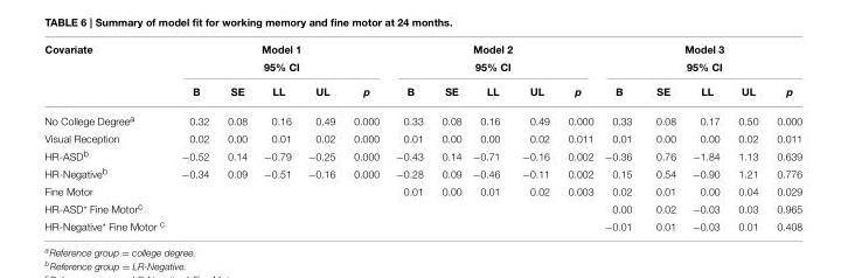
<table><thead><tr><td rowspan="2">Covariate</td><td colspan="5">Model 1 95% CI</td><td colspan="5">Model 2 95% CI</td><td colspan="5">Model 3 95% CI</td></tr><tr><td>B</td><td>SE</td><td>LL</td><td>UL</td><td>p</td><td>B</td><td>SE</td><td>LL</td><td>UL</td><td>p</td><td>B</td><td>SE</td><td>LL</td><td>UL</td><td>p</td></tr></thead><tbody><tr><td>No College Degree<sup>a</sup></td><td>0.32</td><td>0.08</td><td>0.16</td><td>0.49</td><td>0.000</td><td>0.33</td><td>0.08</td><td>0.16</td><td>0.49</td><td>0.000</td><td>0.33</td><td>0.08</td><td>0.17</td><td>0.50</td><td>0.000</td></tr><tr><td>Visual Reception</td><td>0.02</td><td>0.00</td><td>0.01</td><td>0.02</td><td>0.000</td><td>0.01</td><td>0.00</td><td>0.00</td><td>0.02</td><td>0.011</td><td>0.01</td><td>0.00</td><td>0.00</td><td>0.02</td><td>0.011</td></tr><tr><td>HR-ASD<sup>b</sup></td><td>−0.52</td><td>0.14</td><td>−0.79</td><td>−0.25</td><td>0.000</td><td>−0.43</td><td>0.14</td><td>−0.71</td><td>−0.16</td><td>0.002</td><td>−0.36</td><td>0.76</td><td>−1.84</td><td>1.13</td><td>0.639</td></tr><tr><td>HR-Negative<sup>b</sup></td><td>−0.34</td><td>0.09</td><td>−0.51</td><td>−0.16</td><td>0.000</td><td>−0.28</td><td>0.09</td><td>−0.46</td><td>−0.11</td><td>0.002</td><td>0.15</td><td>0.54</td><td>−0.90</td><td>1.21</td><td>0.776</td></tr><tr><td>Fine Motor</td><td></td><td></td><td></td><td></td><td></td><td>0.01</td><td>0.00</td><td>0.01</td><td>0.02</td><td>0.003</td><td>0.02</td><td>0.01</td><td>0.00</td><td>0.04</td><td>0.029</td></tr><tr><td>HR-ASD* Fine Motor<sup>c</sup></td><td></td><td></td><td></td><td></td><td></td><td></td><td></td><td></td><td></td><td></td><td>0.00</td><td>0.02</td><td>−0.03</td><td>0.03</td><td>0.965</td></tr><tr><td>HR-Negative* Fine Motor <sup>c</sup></td><td></td><td></td><td></td><td></td><td></td><td></td><td></td><td></td><td></td><td></td><td>−0.01</td><td>0.01</td><td>−0.03</td><td>0.01</td><td>0.408</td></tr></tbody></table>